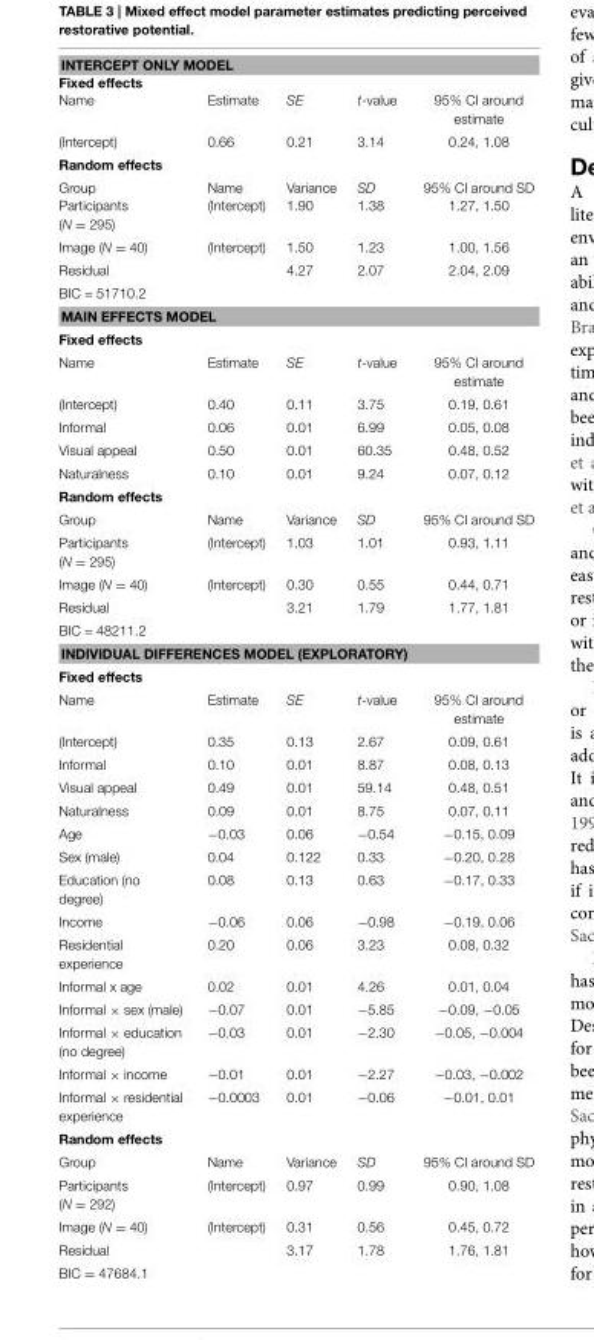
<table><thead><tr><td rowspan="2" colspan="5">INTERCEPT ONLY MODEL Fixed effects</td></tr><tr></tr><tr><td>Name</td><td>Estimate</td><td>SE</td><td>t-value</td><td>95% CI around estimate</td></tr></thead><tbody><tr><td>(Intercept)</td><td>0.66</td><td>0.21</td><td>3.14</td><td>0.24, 1.08</td></tr><tr><td colspan="5">Random effects</td></tr><tr><td>Group</td><td>Name</td><td>Variance</td><td>SD</td><td>95% CI around SD</td></tr><tr><td>Participants (N = 295)</td><td>(Intercept)</td><td>1.90</td><td>1.38</td><td>1.27, 1.50</td></tr><tr><td>Image (N = 40)</td><td>(Intercept)</td><td>1.50</td><td>1.23</td><td>1.00, 1.56</td></tr><tr><td>Residual</td><td></td><td>4.27</td><td>2.07</td><td>2.04, 2.09</td></tr><tr><td colspan="5">BIC = 51710.2</td></tr><tr><td colspan="5">MAIN EFFECTS MODEL</td></tr><tr><td colspan="5">Fixed effects</td></tr><tr><td>Name</td><td>Estimate</td><td>SE</td><td>t-value</td><td>95% CI around estimate</td></tr><tr><td>(Intercept)</td><td>0.40</td><td>0.11</td><td>3.75</td><td>0.19, 0.61</td></tr><tr><td>Informal</td><td>0.06</td><td>0.01</td><td>6.99</td><td>0.05, 0.08</td></tr><tr><td>Visual appeal</td><td>0.50</td><td>0.01</td><td>60.35</td><td>0.48, 0.52</td></tr><tr><td>Naturalness</td><td>0.10</td><td>0.01</td><td>9.24</td><td>0.07, 0.12</td></tr><tr><td colspan="5">Random effects</td></tr><tr><td>Group</td><td>Name</td><td>Variance</td><td>SD</td><td>95% CI around SD</td></tr><tr><td>Participants (N = 295)</td><td>(Intercept)</td><td>1.03</td><td>1.01</td><td>0.93, 1.11</td></tr><tr><td>Image (N = 40)</td><td>(Intercept)</td><td>0.30</td><td>0.55</td><td>0.44, 0.71</td></tr><tr><td>Residual</td><td></td><td>3.21</td><td>1.79</td><td>1.77, 1.81</td></tr><tr><td colspan="5">BIC = 48211.2</td></tr><tr><td colspan="5">INDIVIDUAL DIFFERENCES MODEL (EXPLORATORY)</td></tr><tr><td colspan="5">Fixed effects</td></tr><tr><td>Name</td><td>Estimate</td><td>SE</td><td>t-value</td><td>95% CI around estimate</td></tr><tr><td>(Intercept)</td><td>0.35</td><td>0.13</td><td>2.67</td><td>0.09, 0.61</td></tr><tr><td>Informal</td><td>0.10</td><td>0.01</td><td>8.87</td><td>0.08, 0.13</td></tr><tr><td>Visual appeal</td><td>0.49</td><td>0.01</td><td>59.14</td><td>0.48, 0.51</td></tr><tr><td>Naturalness</td><td>0.09</td><td>0.01</td><td>8.75</td><td>0.07, 0.11</td></tr><tr><td>Age</td><td>−0.03</td><td>0.06</td><td>−0.54</td><td>−0.15, 0.09</td></tr><tr><td>Sex (male)</td><td>0.04</td><td>0.122</td><td>0.33</td><td>−0.20, 0.28</td></tr><tr><td>Education (no degree)</td><td>0.08</td><td>0.13</td><td>0.63</td><td>−0.17, 0.33</td></tr><tr><td>Income</td><td>−0.06</td><td>0.06</td><td>−0.98</td><td>−0.19, 0.06</td></tr><tr><td>Residential experience</td><td>0.20</td><td>0.06</td><td>3.23</td><td>0.08, 0.32</td></tr><tr><td>Informal x age</td><td>0.02</td><td>0.01</td><td>4.26</td><td>0.01, 0.04</td></tr><tr><td>Informal × sex (male)</td><td>−0.07</td><td>0.01</td><td>−5.85</td><td>−0.09, −0.05</td></tr><tr><td>Informal × education (no degree)</td><td>−0.03</td><td>0.01</td><td>−2.30</td><td>−0.05, −0.004</td></tr><tr><td>Informal × income</td><td>−0.01</td><td>0.01</td><td>−2.27</td><td>−0.03, −0.002</td></tr><tr><td>Informal × residential experience</td><td>−0.0003</td><td>0.01</td><td>−0.06</td><td>−0.01, 0.01</td></tr><tr><td colspan="5">Random effects</td></tr><tr><td>Group</td><td>Name</td><td>Variance</td><td>SD</td><td>95% CI around SD</td></tr><tr><td>Participants (N = 292)</td><td>(Intercept)</td><td>0.97</td><td>0.99</td><td>0.90, 1.08</td></tr><tr><td>Image (N = 40)</td><td>(Intercept)</td><td>0.31</td><td>0.56</td><td>0.45, 0.72</td></tr><tr><td>Residual</td><td></td><td>3.17</td><td>1.78</td><td>1.76, 1.81</td></tr><tr><td>BIC = 47684.1</td><td></td><td></td><td></td><td></td></tr></tbody></table>